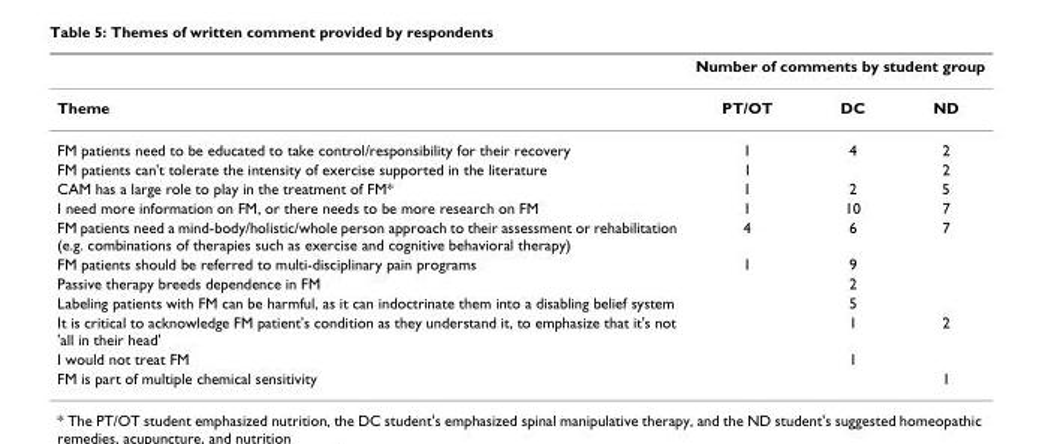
<table><thead><tr><td rowspan="2">Theme</td><td colspan="3">Number of comments by student group</td></tr><tr><td>PT/OT</td><td>DC</td><td>ND</td></tr></thead><tbody><tr><td>FM patients need to be educated to take control/responsibility for their recovery</td><td>1</td><td>4</td><td>2</td></tr><tr><td>FM patients can&#x27;t tolerate the intensity of exercise supported in the literature</td><td>1</td><td></td><td>2</td></tr><tr><td>CAM has a large role to play in the treatment of FM*</td><td>1</td><td>2</td><td>5</td></tr><tr><td>I need more information on FM, or there needs to be more research on FM</td><td>1</td><td>10</td><td>7</td></tr><tr><td>FM patients need a mind-body/holistic/whole person approach to their assessment or rehabilitation (e.g. combinations of therapies such as exercise and cognitive behavioral therapy)</td><td>4</td><td>6</td><td>7</td></tr><tr><td>FM patients should be referred to multi-disciplinary pain programs</td><td>1</td><td>9</td><td></td></tr><tr><td>Passive therapy breeds dependence in FM</td><td></td><td>2</td><td></td></tr><tr><td>Labeling patients with FM can be harmful, as it can indoctrinate them into a disabling belief system</td><td></td><td>5</td><td></td></tr><tr><td>It is critical to acknowledge FM patient&#x27;s condition as they understand it, to emphasize that it&#x27;s not &#x27;all in their head&#x27;</td><td></td><td>1</td><td>2</td></tr><tr><td>I would not treat FM</td><td></td><td>1</td><td></td></tr><tr><td>FM is part of multiple chemical sensitivity</td><td></td><td></td><td>1</td></tr></tbody></table>